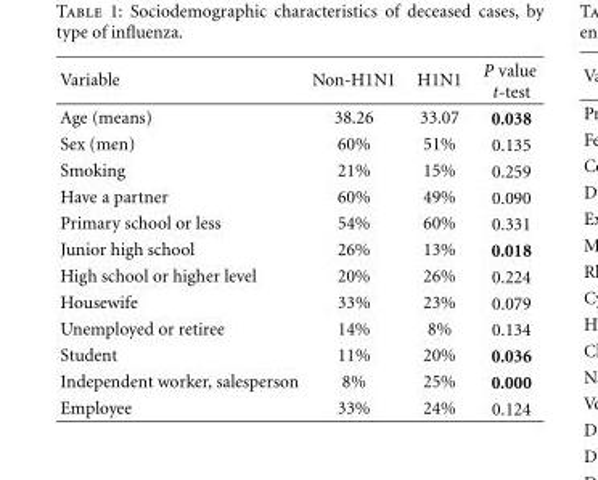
<table><thead><tr><td>Variable</td><td>Non-H1N1</td><td>H1N1</td><td>P value t-test</td></tr></thead><tbody><tr><td>Age (means)</td><td>38.26</td><td>33.07</td><td>0.038</td></tr><tr><td>Sex (men)</td><td>60%</td><td>51%</td><td>0.135</td></tr><tr><td>Smoking</td><td>21%</td><td>15%</td><td>0.259</td></tr><tr><td>Have a partner</td><td>60%</td><td>49%</td><td>0.090</td></tr><tr><td>Primary school or less</td><td>54%</td><td>60%</td><td>0.331</td></tr><tr><td>Junior high school</td><td>26%</td><td>13%</td><td>0.018</td></tr><tr><td>High school or higher level</td><td>20%</td><td>26%</td><td>0.224</td></tr><tr><td>Housewife</td><td>33%</td><td>23%</td><td>0.079</td></tr><tr><td>Unemployed or retiree</td><td>14%</td><td>8%</td><td>0.134</td></tr><tr><td>Student</td><td>11%</td><td>20%</td><td>0.036</td></tr><tr><td>Independent worker, salesperson</td><td>8%</td><td>25%</td><td>0.000</td></tr><tr><td>Employee</td><td>33%</td><td>24%</td><td>0.124</td></tr></tbody></table>